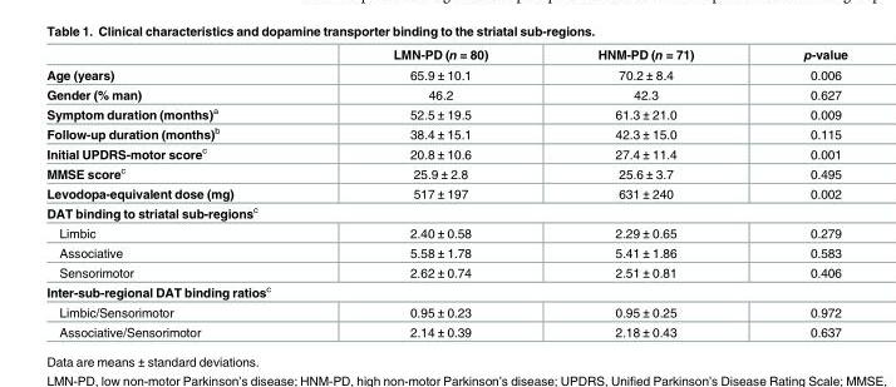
<table><thead><tr><td></td><td>LMN-PD (n = 80)</td><td>HNM-PD (n = 71)</td><td>p-value</td></tr></thead><tbody><tr><td>Age (years)</td><td>65.9 ± 10.1</td><td>70.2 ± 8.4</td><td>0.006</td></tr><tr><td>Gender (% man)</td><td>46.2</td><td>42.3</td><td>0.627</td></tr><tr><td>Symptom duration (months)<sup>a</sup></td><td>52.5 ± 19.5</td><td>61.3 ± 21.0</td><td>0.009</td></tr><tr><td>Follow-up duration (months)<sup>b</sup></td><td>38.4 ± 15.1</td><td>42.3 ± 15.0</td><td>0.115</td></tr><tr><td>Initial UPDRS-motor score<sup>c</sup></td><td>20.8 ± 10.6</td><td>27.4 ± 11.4</td><td>0.001</td></tr><tr><td>MMSE score<sup>c</sup></td><td>25.9 ± 2.8</td><td>25.6 ± 3.7</td><td>0.495</td></tr><tr><td>Levodopa-equivalent dose (mg)</td><td>517 ± 197</td><td>631 ± 240</td><td>0.002</td></tr><tr><td colspan="4">DAT binding to striatal sub-regions<sup>c</sup></td></tr><tr><td>Limbic</td><td>2.40 ± 0.58</td><td>2.29 ± 0.65</td><td>0.279</td></tr><tr><td>Associative</td><td>5.58 ± 1.78</td><td>5.41 ± 1.86</td><td>0.583</td></tr><tr><td>Sensorimotor</td><td>2.62 ± 0.74</td><td>2.51 ± 0.81</td><td>0.406</td></tr><tr><td colspan="4">Inter-sub-regional DAT binding ratios<sup>c</sup></td></tr><tr><td>Limbic/Sensorimotor</td><td>0.95 ± 0.23</td><td>0.95 ± 0.25</td><td>0.972</td></tr><tr><td>Associative/Sensorimotor</td><td>2.14 ± 0.39</td><td>2.18 ± 0.43</td><td>0.637</td></tr></tbody></table>